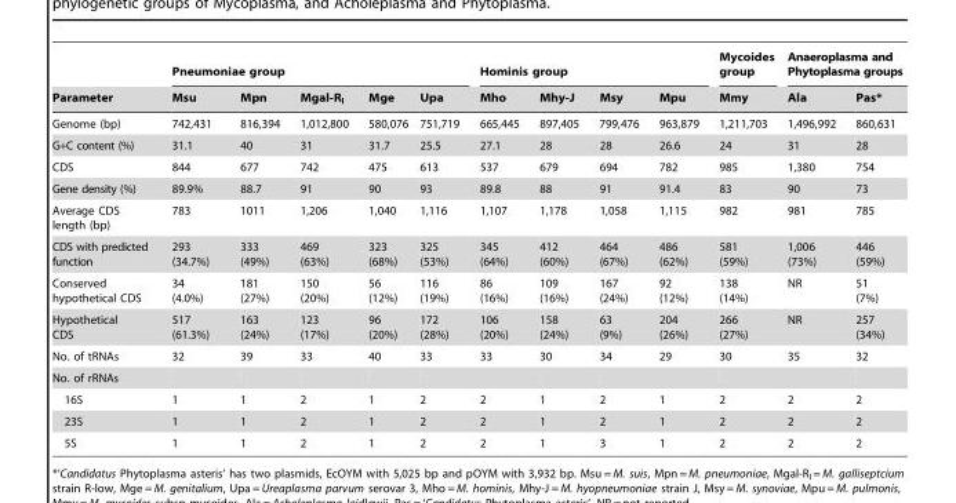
<table><thead><tr><td rowspan="2">Parameter</td><td colspan="5">Pneumoniae group</td><td colspan="4">Hominis group</td><td rowspan="2">Mycoides group Mmy</td><td colspan="2">Anaeroplasma and Phytoplasma groups</td></tr><tr><td>Msu</td><td>Mpn</td><td>Mgal-R<sub>l</sub></td><td>Mge</td><td>Upa</td><td>Mho</td><td>Mhy-J</td><td>Msy</td><td>Mpu</td><td>Ala</td><td>Pas*</td></tr></thead><tbody><tr><td>Genome (bp)</td><td>742,431</td><td>816,394</td><td>1,012,800</td><td>580,076</td><td>751,719</td><td>665,445</td><td>897,405</td><td>799,476</td><td>963,879</td><td>1,211,703</td><td>1,496,992</td><td>860,631</td></tr><tr><td>G+C content (%)</td><td>31.1</td><td>40</td><td>31</td><td>31.7</td><td>25.5</td><td>27.1</td><td>28</td><td>28</td><td>26.6</td><td>24</td><td>31</td><td>28</td></tr><tr><td>CDS</td><td>844</td><td>677</td><td>742</td><td>475</td><td>613</td><td>537</td><td>679</td><td>694</td><td>782</td><td>985</td><td>1,380</td><td>754</td></tr><tr><td>Gene density (%)</td><td>89.9%</td><td>88.7</td><td>91</td><td>90</td><td>93</td><td>89.8</td><td>88</td><td>91</td><td>91.4</td><td>83</td><td>90</td><td>73</td></tr><tr><td>Average CDS length (bp)</td><td>783</td><td>1011</td><td>1,206</td><td>1,040</td><td>1,116</td><td>1,107</td><td>1,178</td><td>1,058</td><td>1,115</td><td>982</td><td>981</td><td>785</td></tr><tr><td>CDS with predicted function</td><td>293 (34.7%)</td><td>333 (49%)</td><td>469 (63%)</td><td>323 (68%)</td><td>325 (53%)</td><td>345 (64%)</td><td>412 (60%)</td><td>464 (67%)</td><td>486 (62%)</td><td>581 (59%)</td><td>1,006 (73%)</td><td>446 (59%)</td></tr><tr><td>Conserved hypothetical CDS</td><td>34 (4.0%)</td><td>181 (27%)</td><td>150 (20%)</td><td>56 (12%)</td><td>116 (19%)</td><td>86 (16%)</td><td>109 (16%)</td><td>167 (24%)</td><td>92 (12%)</td><td>138 (14%)</td><td>NR</td><td>51 (7%)</td></tr><tr><td>Hypothetical CDS</td><td>517 (61.3%)</td><td>163 (24%)</td><td>123 (17%)</td><td>96 (20%)</td><td>172 (28%)</td><td>106 (20%)</td><td>158 (24%)</td><td>63 (9%)</td><td>204 (26%)</td><td>266 (27%)</td><td>NR</td><td>257 (34%)</td></tr><tr><td>No. of tRNAs</td><td>32</td><td>39</td><td>33</td><td>40</td><td>33</td><td>33</td><td>30</td><td>34</td><td>29</td><td>30</td><td>35</td><td>32</td></tr><tr><td colspan="13">No. of rRNAs</td></tr><tr><td>16S</td><td>1</td><td>1</td><td>2</td><td>1</td><td>2</td><td>2</td><td>1</td><td>2</td><td>1</td><td>2</td><td>2</td><td>2</td></tr><tr><td>23S</td><td>1</td><td>1</td><td>2</td><td>1</td><td>2</td><td>2</td><td>1</td><td>2</td><td>1</td><td>2</td><td>2</td><td>2</td></tr><tr><td>5S</td><td>1</td><td>1</td><td>2</td><td>1</td><td>2</td><td>2</td><td>1</td><td>3</td><td>1</td><td>2</td><td>2</td><td>2</td></tr></tbody></table>